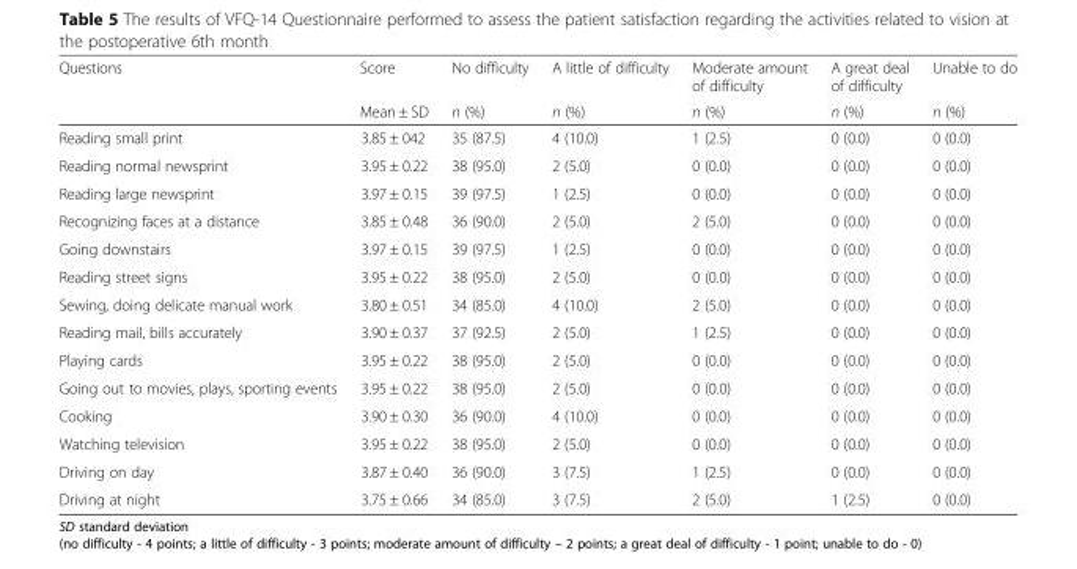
<table><thead><tr><td rowspan="2">Questions</td><td rowspan="2">Score Mean ± SD</td><td rowspan="2">No difficulty n (%)</td><td rowspan="2">A little of difficulty n (%)</td><td rowspan="2">Moderate amount of difficulty n (%)</td><td rowspan="2">A great deal of difficulty n (%)</td><td rowspan="2">Unable to do n (%)</td></tr><tr></tr></thead><tbody><tr><td>Reading small print</td><td>3.85 ± 042</td><td>35 (87.5)</td><td>4 (10.0)</td><td>1 (2.5)</td><td>0 (0.0)</td><td>0 (0.0)</td></tr><tr><td>Reading normal newsprint</td><td>3.95 ± 0.22</td><td>38 (95.0)</td><td>2 (5.0)</td><td>0 (0.0)</td><td>0 (0.0)</td><td>0 (0.0)</td></tr><tr><td>Reading large newsprint</td><td>3.97 ± 0.15</td><td>39 (97.5)</td><td>1 (2.5)</td><td>0 (0.0)</td><td>0 (0.0)</td><td>0 (0.0)</td></tr><tr><td>Recognizing faces at a distance</td><td>3.85 ± 0.48</td><td>36 (90.0)</td><td>2 (5.0)</td><td>2 (5.0)</td><td>0 (0.0)</td><td>0 (0.0)</td></tr><tr><td>Going downstairs</td><td>3.97 ± 0.15</td><td>39 (97.5)</td><td>1 (2.5)</td><td>0 (0.0)</td><td>0 (0.0)</td><td>0 (0.0)</td></tr><tr><td>Reading street signs</td><td>3.95 ± 0.22</td><td>38 (95.0)</td><td>2 (5.0)</td><td>0 (0.0)</td><td>0 (0.0)</td><td>0 (0.0)</td></tr><tr><td>Sewing, doing delicate manual work</td><td>3.80 ± 0.51</td><td>34 (85.0)</td><td>4 (10.0)</td><td>2 (5.0)</td><td>0 (0.0)</td><td>0 (0.0)</td></tr><tr><td>Reading mail, bills accurately</td><td>3.90 ± 0.37</td><td>37 (92.5)</td><td>2 (5.0)</td><td>1 (2.5)</td><td>0 (0.0)</td><td>0 (0.0)</td></tr><tr><td>Playing cards</td><td>3.95 ± 0.22</td><td>38 (95.0)</td><td>2 (5.0)</td><td>0 (0.0)</td><td>0 (0.0)</td><td>0 (0.0)</td></tr><tr><td>Going out to movies, plays, sporting events</td><td>3.95 ± 0.22</td><td>38 (95.0)</td><td>2 (5.0)</td><td>0 (0.0)</td><td>0 (0.0)</td><td>0 (0.0)</td></tr><tr><td>Cooking</td><td>3.90 ± 0.30</td><td>36 (90.0)</td><td>4 (10.0)</td><td>0 (0.0)</td><td>0 (0.0)</td><td>0 (0.0)</td></tr><tr><td>Watching television</td><td>3.95 ± 0.22</td><td>38 (95.0)</td><td>2 (5.0)</td><td>0 (0.0)</td><td>0 (0.0)</td><td>0 (0.0)</td></tr><tr><td>Driving on day</td><td>3.87 ± 0.40</td><td>36 (90.0)</td><td>3 (7.5)</td><td>1 (2.5)</td><td>0 (0.0)</td><td>0 (0.0)</td></tr><tr><td>Driving at night</td><td>3.75 ± 0.66</td><td>34 (85.0)</td><td>3 (7.5)</td><td>2 (5.0)</td><td>1 (2.5)</td><td>0 (0.0)</td></tr></tbody></table>